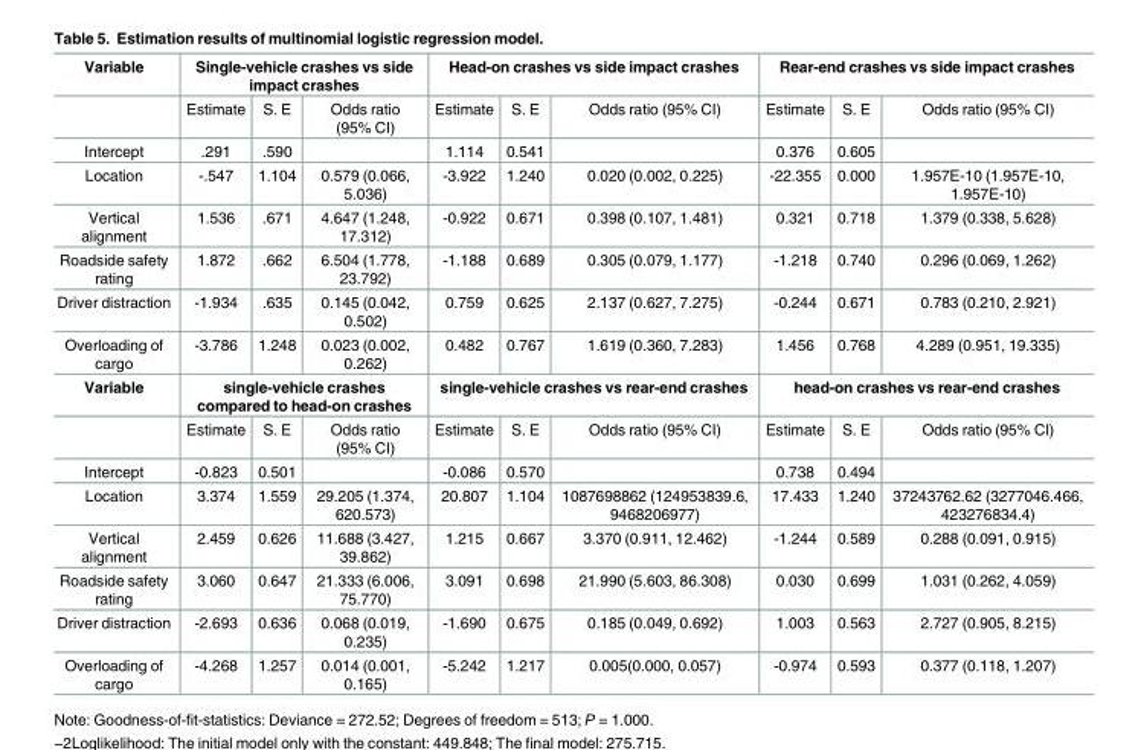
<table><tbody><tr><td rowspan="2">Variable</td><td colspan="3">Single-vehicle crashes vs side impact crashes</td><td colspan="3">Head-on crashes vs side impact crashes</td><td colspan="3">Rear-end crashes vs side impact crashes</td></tr><tr><td>Estimate</td><td>S. E</td><td>Odds ratio (95% CI)</td><td>Estimate</td><td>S. E</td><td>Odds ratio (95% CI)</td><td>Estimate</td><td>S. E</td><td>Odds ratio (95% CI)</td></tr><tr><td>Intercept</td><td>.291</td><td>.590</td><td></td><td>1.114</td><td>0.541</td><td></td><td>0.376</td><td>0.605</td><td></td></tr><tr><td>Location</td><td>-.547</td><td>1.104</td><td>0.579 (0.066, 5.036)</td><td>-3.922</td><td>1.240</td><td>0.020 (0.002, 0.225)</td><td>-22.355</td><td>0.000</td><td>1.957E-10 (1.957E-10, 1.957E-10)</td></tr><tr><td>Vertical alignment</td><td>1.536</td><td>.671</td><td>4.647 (1.248, 17.312)</td><td>-0.922</td><td>0.671</td><td>0.398 (0.107, 1.481)</td><td>0.321</td><td>0.718</td><td>1.379 (0.338, 5.628)</td></tr><tr><td>Roadside safety rating</td><td>1.872</td><td>.662</td><td>6.504 (1.778, 23.792)</td><td>-1.188</td><td>0.689</td><td>0.305 (0.079, 1.177)</td><td>-1.218</td><td>0.740</td><td>0.296 (0.069, 1.262)</td></tr><tr><td>Driver distraction</td><td>-1.934</td><td>.635</td><td>0.145 (0.042, 0.502)</td><td>0.759</td><td>0.625</td><td>2.137 (0.627, 7.275)</td><td>-0.244</td><td>0.671</td><td>0.783 (0.210, 2.921)</td></tr><tr><td>Overloading of cargo</td><td>-3.786</td><td>1.248</td><td>0.023 (0.002, 0.262)</td><td>0.482</td><td>0.767</td><td>1.619 (0.360, 7.283)</td><td>1.456</td><td>0.768</td><td>4.289 (0.951, 19.335)</td></tr><tr><td rowspan="2">Variable</td><td colspan="3">single-vehicle crashes compared to head-on crashes</td><td colspan="3">single-vehicle crashes vs rear-end crashes</td><td colspan="3">head-on crashes vs rear-end crashes</td></tr><tr><td>Estimate</td><td>S. E</td><td>Odds ratio (95% CI)</td><td>Estimate</td><td>S. E</td><td>Odds ratio (95% CI)</td><td>Estimate</td><td>S. E</td><td>Odds ratio (95% CI)</td></tr><tr><td>Intercept</td><td>-0.823</td><td>0.501</td><td></td><td>-0.086</td><td>0.570</td><td></td><td>0.738</td><td>0.494</td><td></td></tr><tr><td>Location</td><td>3.374</td><td>1.559</td><td>29.205 (1.374, 620.573)</td><td>20.807</td><td>1.104</td><td>1087698862 (124953839.6, 9468206977)</td><td>17.433</td><td>1.240</td><td>37243762.62 (3277046.466, 423276834.4)</td></tr><tr><td>Vertical alignment</td><td>2.459</td><td>0.626</td><td>11.688 (3.427, 39.862)</td><td>1.215</td><td>0.667</td><td>3.370 (0.911, 12.462)</td><td>-1.244</td><td>0.589</td><td>0.288 (0.091, 0.915)</td></tr><tr><td>Roadside safety rating</td><td>3.060</td><td>0.647</td><td>21.333 (6.006, 75.770)</td><td>3.091</td><td>0.698</td><td>21.990 (5.603, 86.308)</td><td>0.030</td><td>0.699</td><td>1.031 (0.262, 4.059)</td></tr><tr><td>Driver distraction</td><td>-2.693</td><td>0.636</td><td>0.068 (0.019, 0.235)</td><td>-1.690</td><td>0.675</td><td>0.185 (0.049, 0.692)</td><td>1.003</td><td>0.563</td><td>2.727 (0.905, 8.215)</td></tr><tr><td>Overloading of cargo</td><td>-4.268</td><td>1.257</td><td>0.014 (0.001, 0.165)</td><td>-5.242</td><td>1.217</td><td>0.005(0.000, 0.057)</td><td>-0.974</td><td>0.593</td><td>0.377 (0.118, 1.207)</td></tr></tbody></table>